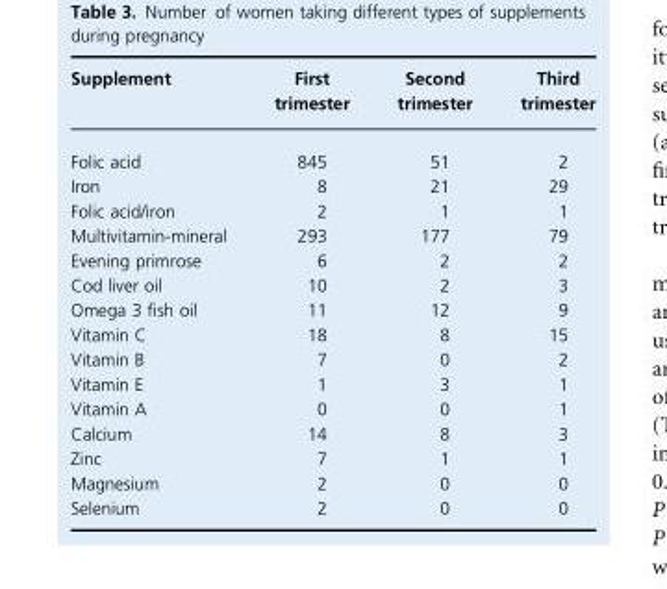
<table><thead><tr><td>Supplement</td><td>First trimester</td><td>Second trimester</td><td>Third trimester</td></tr></thead><tbody><tr><td>Folic acid</td><td>845</td><td>51</td><td>2</td></tr><tr><td>Iron</td><td>8</td><td>21</td><td>29</td></tr><tr><td>Folic acid/iron</td><td>2</td><td>1</td><td>1</td></tr><tr><td>Multivitamin-mineral</td><td>293</td><td>177</td><td>79</td></tr><tr><td>Evening primrose</td><td>6</td><td>2</td><td>2</td></tr><tr><td>Cod liver oil</td><td>10</td><td>2</td><td>3</td></tr><tr><td>Omega 3 fish oil</td><td>11</td><td>12</td><td>9</td></tr><tr><td>Vitamin C</td><td>18</td><td>8</td><td>15</td></tr><tr><td>Vitamin B</td><td>7</td><td>0</td><td>2</td></tr><tr><td>Vitamin E</td><td>1</td><td>3</td><td>1</td></tr><tr><td>Vitamin A</td><td>0</td><td>0</td><td>1</td></tr><tr><td>Calcium</td><td>14</td><td>8</td><td>3</td></tr><tr><td>Zinc</td><td>7</td><td>1</td><td>1</td></tr><tr><td>Magnesium</td><td>2</td><td>0</td><td>0</td></tr><tr><td>Selenium</td><td>2</td><td>0</td><td>0</td></tr></tbody></table>